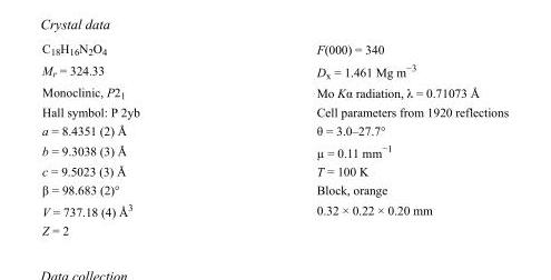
<table><tbody><tr><td>C<sub>18</sub>H<sub>16</sub>N<sub>2</sub>O<sub>4</sub></td><td>F(000) = 340</td></tr><tr><td>M<sub>r</sub> = 324.33</td><td>D<sub>x</sub> = 1.461 Mg m<sup>−3</sup></td></tr><tr><td>Monoclinic, P2<sub>1</sub></td><td>Mo Kα radiation, λ = 0.71073 Å</td></tr><tr><td>Hall symbol: P 2yb</td><td>Cell parameters from 1920 reflections</td></tr><tr><td>a = 8.4351 (2) Å</td><td>θ = 3.0–27.7°</td></tr><tr><td>b = 9.3038 (3) Å</td><td>µ = 0.11 mm<sup>−1</sup></td></tr><tr><td>c = 9.5023 (3) Å</td><td>T = 100 K</td></tr><tr><td>β = 98.683 (2)°</td><td>Block, orange</td></tr><tr><td>V = 737.18 (4) Å<sup>3</sup></td><td>0.32 × 0.22 × 0.20 mm</td></tr><tr><td>Z = 2</td><td></td></tr></tbody></table>